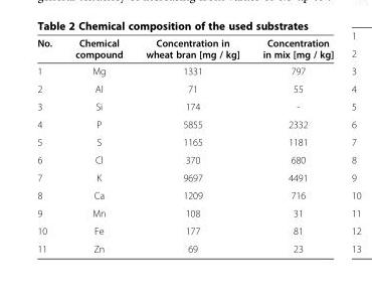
<table><thead><tr><td>No.</td><td>Chemical compound</td><td>Concentration in wheat bran [mg / kg]</td><td>Concentration in mix [mg / kg]</td></tr></thead><tbody><tr><td>1</td><td>Mg</td><td>1331</td><td>797</td></tr><tr><td>2</td><td>Al</td><td>71</td><td>55</td></tr><tr><td>3</td><td>Si</td><td>174</td><td>-</td></tr><tr><td>4</td><td>P</td><td>5855</td><td>2332</td></tr><tr><td>5</td><td>S</td><td>1165</td><td>1181</td></tr><tr><td>6</td><td>Cl</td><td>370</td><td>680</td></tr><tr><td>7</td><td>K</td><td>9697</td><td>4491</td></tr><tr><td>8</td><td>Ca</td><td>1209</td><td>716</td></tr><tr><td>9</td><td>Mn</td><td>108</td><td>31</td></tr><tr><td>10</td><td>Fe</td><td>177</td><td>81</td></tr><tr><td>11</td><td>Zn</td><td>69</td><td>23</td></tr></tbody></table>